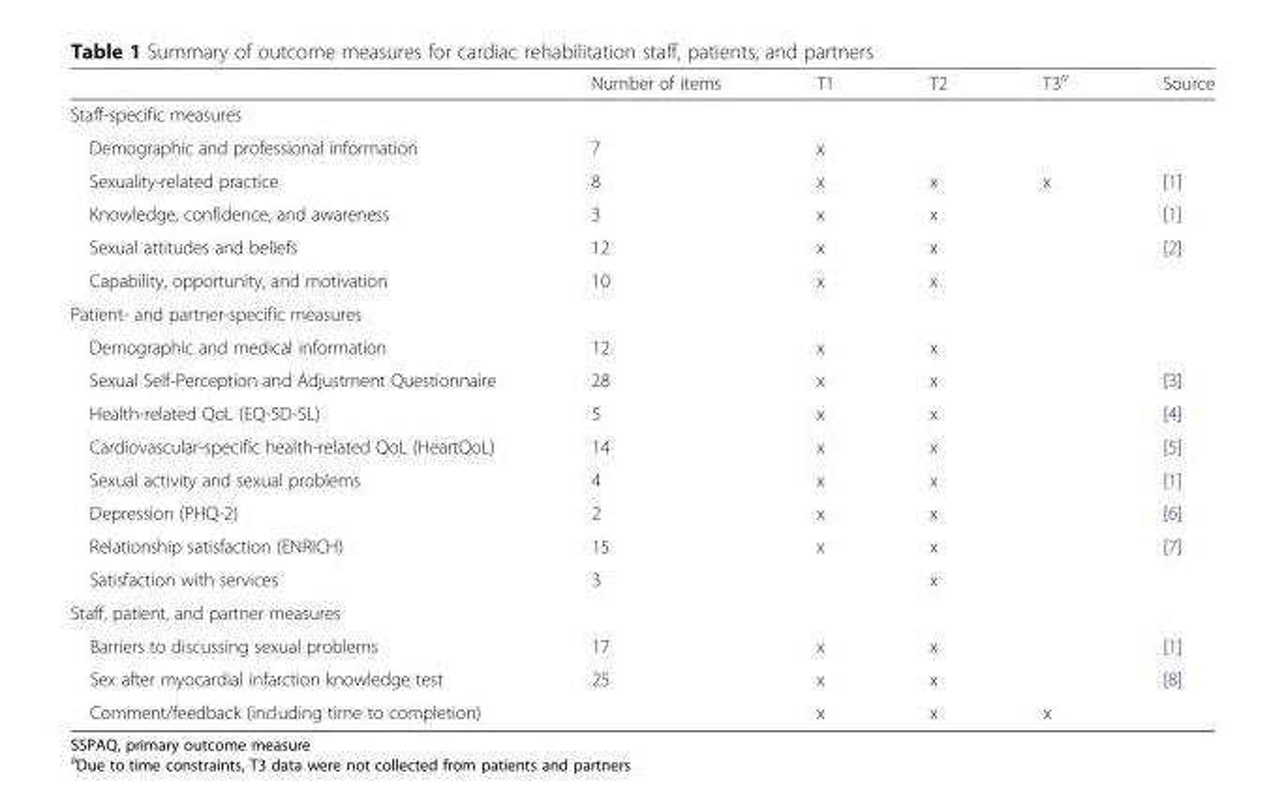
<table><thead><tr><td></td><td>Number of items</td><td>T1</td><td>T2</td><td>T3<sup>a</sup></td><td>Source</td></tr></thead><tbody><tr><td colspan="6">Staff-specific measures</td></tr><tr><td>Demographic and professional information</td><td>7</td><td>x</td><td></td><td></td><td></td></tr><tr><td>Sexuality-related practice</td><td>8</td><td>x</td><td>x</td><td>x</td><td>[1]</td></tr><tr><td>Knowledge, confidence, and awareness</td><td>3</td><td>x</td><td>x</td><td></td><td>[1]</td></tr><tr><td>Sexual attitudes and beliefs</td><td>12</td><td>x</td><td>x</td><td></td><td>[2]</td></tr><tr><td>Capability, opportunity, and motivation</td><td>10</td><td>x</td><td>x</td><td></td><td></td></tr><tr><td colspan="6">Patient- and partner-specific measures</td></tr><tr><td>Demographic and medical information</td><td>12</td><td>x</td><td>x</td><td></td><td></td></tr><tr><td>Sexual Self-Perception and Adjustment Questionnaire</td><td>28</td><td>x</td><td>x</td><td></td><td>[3]</td></tr><tr><td>Health-related QoL (EQ-5D-5L)</td><td>5</td><td>x</td><td>x</td><td></td><td>[4]</td></tr><tr><td>Cardiovascular-specific health-related QoL (HeartQoL)</td><td>14</td><td>x</td><td>x</td><td></td><td>[5]</td></tr><tr><td>Sexual activity and sexual problems</td><td>4</td><td>x</td><td>x</td><td></td><td>[1]</td></tr><tr><td>Depression (PHQ-2)</td><td>2</td><td>x</td><td>x</td><td></td><td>[6]</td></tr><tr><td>Relationship satisfaction (ENRICH)</td><td>15</td><td>x</td><td>x</td><td></td><td>[7]</td></tr><tr><td>Satisfaction with services</td><td>3</td><td></td><td>x</td><td></td><td></td></tr><tr><td colspan="6">Staff, patient, and partner measures</td></tr><tr><td>Barriers to discussing sexual problems</td><td>17</td><td>x</td><td>x</td><td></td><td>[1]</td></tr><tr><td>Sex after myocardial infarction knowledge test</td><td>25</td><td>x</td><td>x</td><td></td><td>[8]</td></tr><tr><td>Comment/feedback (including time to completion)</td><td></td><td>x</td><td>x</td><td>x</td><td></td></tr></tbody></table>